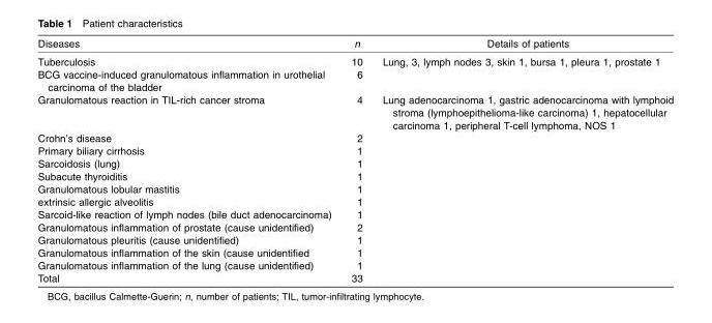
<table><thead><tr><td>Diseases</td><td>n</td><td>Details of patients</td></tr></thead><tbody><tr><td>Tuberculosis</td><td>10</td><td>Lung, 3, lymph nodes 3, skin 1, bursa 1, pleura 1, prostate 1</td></tr><tr><td>BCG vaccine-induced granulomatous inflammation in urothelial carcinoma of the bladder</td><td>6</td><td></td></tr><tr><td>Granulomatous reaction in TIL-rich cancer stroma</td><td>4</td><td>Lung adenocarcinoma 1, gastric adenocarcinoma with lymphoid stroma (lymphoepithelioma-like carcinoma) 1, hepatocellular carcinoma 1, peripheral T-cell lymphoma, NOS 1</td></tr><tr><td>Crohn’s disease</td><td>2</td><td></td></tr><tr><td>Primary biliary cirrhosis</td><td>1</td><td></td></tr><tr><td>Sarcoidosis (lung)</td><td>1</td><td></td></tr><tr><td>Subacute thyroiditis</td><td>1</td><td></td></tr><tr><td>Granulomatous lobular mastitis</td><td>1</td><td></td></tr><tr><td>extrinsic allergic alveolitis</td><td>1</td><td></td></tr><tr><td>Sarcoid-like reaction of lymph nodes (bile duct adenocarcinoma)</td><td>1</td><td></td></tr><tr><td>Granulomatous inflammation of prostate (cause unidentified)</td><td>2</td><td></td></tr><tr><td>Granulomatous pleuritis (cause unidentified)</td><td>1</td><td></td></tr><tr><td>Granulomatous inflammation of the skin (cause unidentified</td><td>1</td><td></td></tr><tr><td>Granulomatous inflammation of the lung (cause unidentified)</td><td>1</td><td></td></tr><tr><td>Total</td><td>33</td><td></td></tr></tbody></table>